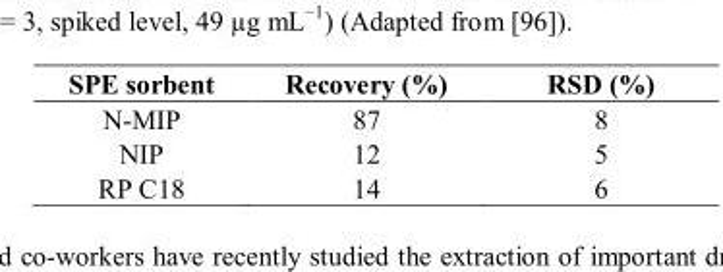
<table><thead><tr><td>SPE sorbent</td><td>Recovery (%)</td><td>RSD (%)</td></tr></thead><tbody><tr><td>N-MIP</td><td>87</td><td>8</td></tr><tr><td>NIP</td><td>12</td><td>5</td></tr><tr><td>RP C18</td><td>14</td><td>6</td></tr></tbody></table>